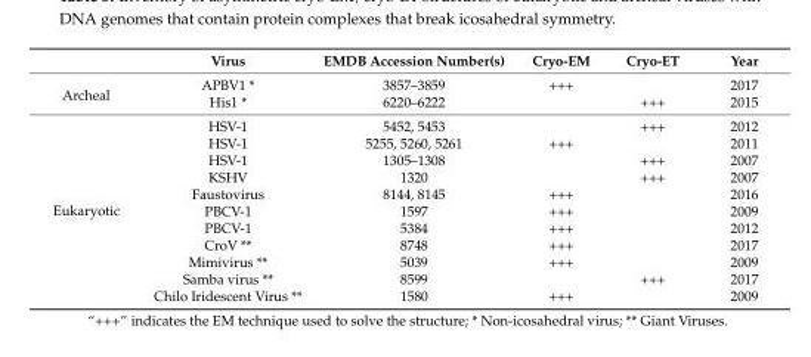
<table><thead><tr><td></td><td>Virus</td><td>EMDB Accession Number(s)</td><td>Cryo-EM</td><td>Cryo-ET</td><td>Year</td></tr></thead><tbody><tr><td rowspan="2">Archeal</td><td>APBV1 *</td><td>3857–3859</td><td>+++</td><td></td><td>2017</td></tr><tr><td>His1 *</td><td>6220–6222</td><td></td><td>+++</td><td>2015</td></tr><tr><td rowspan="11">Eukaryotic</td><td>HSV-1</td><td>5452, 5453</td><td></td><td>+++</td><td>2012</td></tr><tr><td>HSV-1</td><td>5255, 5260, 5261</td><td>+++</td><td></td><td>2011</td></tr><tr><td>HSV-1</td><td>1305–1308</td><td></td><td>+++</td><td>2007</td></tr><tr><td>KSHV</td><td>1320</td><td></td><td>+++</td><td>2007</td></tr><tr><td>Faustovirus</td><td>8144, 8145</td><td>+++</td><td></td><td>2016</td></tr><tr><td>PBCV-1</td><td>1597</td><td>+++</td><td></td><td>2009</td></tr><tr><td>PBCV-1</td><td>5384</td><td>+++</td><td></td><td>2012</td></tr><tr><td>CroV **</td><td>8748</td><td>+++</td><td></td><td>2017</td></tr><tr><td>Mimivirus **</td><td>5039</td><td>+++</td><td></td><td>2009</td></tr><tr><td>Samba virus **</td><td>8599</td><td></td><td>+++</td><td>2017</td></tr><tr><td>Chilo Iridescent Virus **</td><td>1580</td><td>+++</td><td></td><td>2009</td></tr></tbody></table>